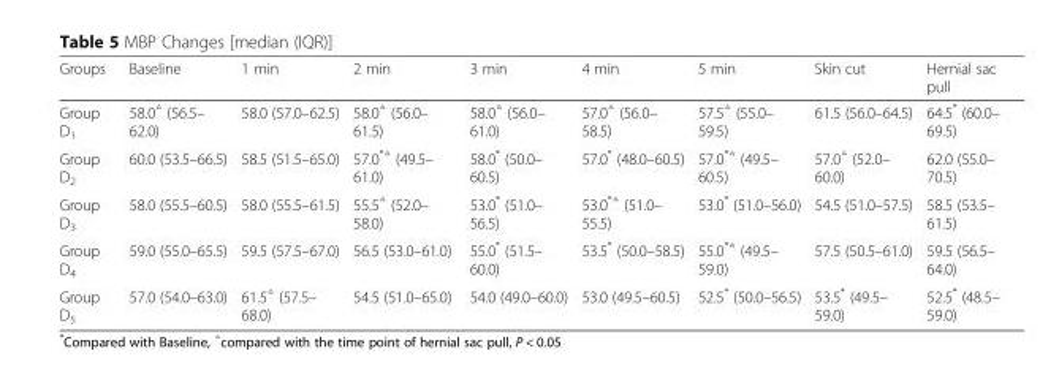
<table><thead><tr><td>Groups</td><td>Baseline</td><td>1 min</td><td>2 min</td><td>3 min</td><td>4 min</td><td>5 min</td><td>Skin cut</td><td>Hernial sac pull</td></tr></thead><tbody><tr><td>Group D<sub>1</sub></td><td>58.0<sup>△</sup> (56.5– 62.0)</td><td>58.0 (57.0–62.5)</td><td>58.0<sup>△</sup> (56.0– 61.5)</td><td>58.0<sup>△</sup> (56.0– 61.0)</td><td>57.0<sup>△</sup> (56.0– 58.5)</td><td>57.5<sup>△</sup> (55.0– 59.5)</td><td>61.5 (56.0–64.5)</td><td>64.5* (60.0– 69.5)</td></tr><tr><td>Group D<sub>2</sub></td><td>60.0 (53.5–66.5)</td><td>58.5 (51.5–65.0)</td><td>57.0<sup>*△</sup> (49.5– 61.0)</td><td>58.0* (50.0– 60.5)</td><td>57.0* (48.0–60.5)</td><td>57.0<sup>*△</sup> (49.5– 60.5)</td><td>57.0<sup>△</sup> (52.0– 60.0)</td><td>62.0 (55.0– 70.5)</td></tr><tr><td>Group D<sub>3</sub></td><td>58.0 (55.5–60.5)</td><td>58.0 (55.5–61.5)</td><td>55.5<sup>△</sup> (52.0– 58.0)</td><td>53.0* (51.0– 56.5)</td><td>53.0<sup>*△</sup> (51.0– 55.5)</td><td>53.0* (51.0–56.0)</td><td>54.5 (51.0–57.5)</td><td>58.5 (53.5– 61.5)</td></tr><tr><td>Group D<sub>4</sub></td><td>59.0 (55.0–65.5)</td><td>59.5 (57.5–67.0)</td><td>56.5 (53.0–61.0)</td><td>55.0* (51.5– 60.0)</td><td>53.5* (50.0–58.5)</td><td>55.0<sup>*△</sup> (49.5– 59.0)</td><td>57.5 (50.5–61.0)</td><td>59.5 (56.5– 64.0)</td></tr><tr><td>Group D<sub>5</sub></td><td>57.0 (54.0–63.0)</td><td>61.5<sup>△</sup> (57.5– 68.0)</td><td>54.5 (51.0–65.0)</td><td>54.0 (49.0–60.0)</td><td>53.0 (49.5–60.5)</td><td>52.5* (50.0–56.5)</td><td>53.5* (49.5– 59.0)</td><td>52.5* (48.5– 59.0)</td></tr></tbody></table>